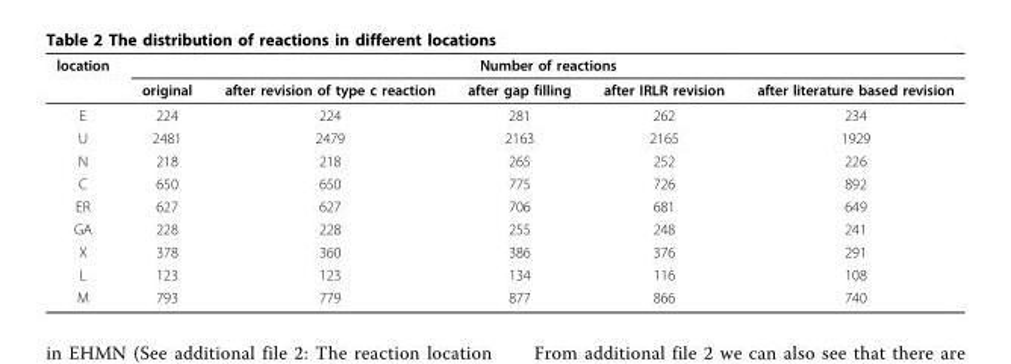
<table><thead><tr><td rowspan="2">location</td><td colspan="5">Number of reactions</td></tr><tr><td>original</td><td>after revision of type c reaction</td><td>after gap filling</td><td>after IRLR revision</td><td>after literature based revision</td></tr></thead><tbody><tr><td>E</td><td>224</td><td>224</td><td>281</td><td>262</td><td>234</td></tr><tr><td>U</td><td>2481</td><td>2479</td><td>2163</td><td>2165</td><td>1929</td></tr><tr><td>N</td><td>218</td><td>218</td><td>265</td><td>252</td><td>226</td></tr><tr><td>C</td><td>650</td><td>650</td><td>775</td><td>726</td><td>892</td></tr><tr><td>ER</td><td>627</td><td>627</td><td>706</td><td>681</td><td>649</td></tr><tr><td>GA</td><td>228</td><td>228</td><td>255</td><td>248</td><td>241</td></tr><tr><td>X</td><td>378</td><td>360</td><td>386</td><td>376</td><td>291</td></tr><tr><td>L</td><td>123</td><td>123</td><td>134</td><td>116</td><td>108</td></tr><tr><td>M</td><td>793</td><td>779</td><td>877</td><td>866</td><td>740</td></tr></tbody></table>